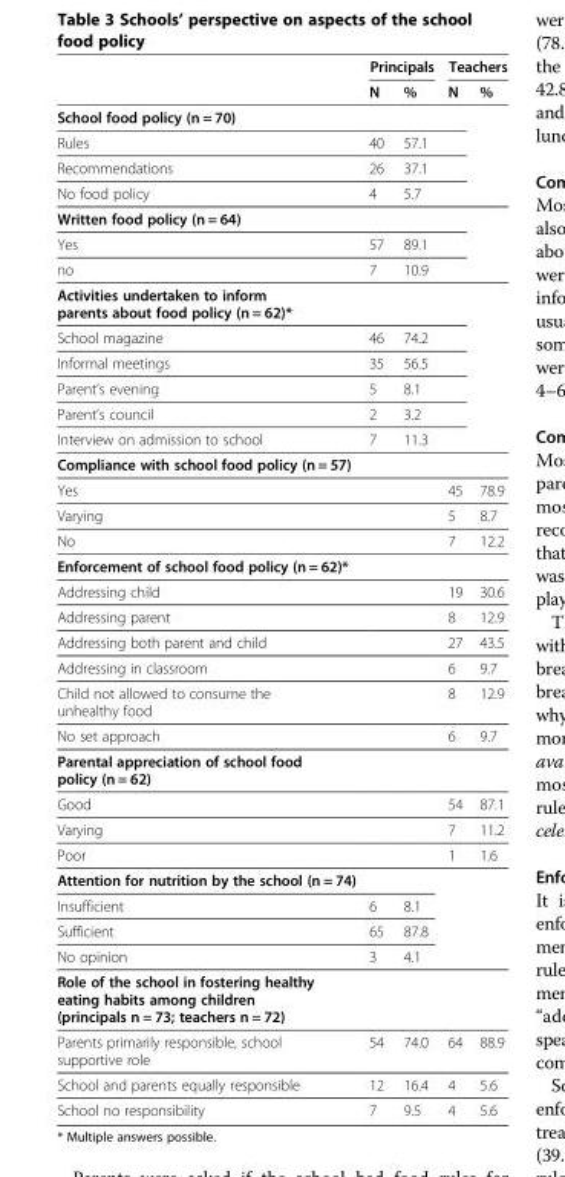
<table><thead><tr><td rowspan="2"></td><td colspan="2">Principals</td><td colspan="2">Teachers</td></tr><tr><td>N</td><td>%</td><td>N</td><td>%</td></tr></thead><tbody><tr><td colspan="5">School food policy (n = 70)</td></tr><tr><td>Rules</td><td>40</td><td>57.1</td><td></td><td></td></tr><tr><td>Recommendations</td><td>26</td><td>37.1</td><td></td><td></td></tr><tr><td>No food policy</td><td>4</td><td>5.7</td><td></td><td></td></tr><tr><td colspan="5">Written food policy (n = 64)</td></tr><tr><td>Yes</td><td>57</td><td>89.1</td><td></td><td></td></tr><tr><td>no</td><td>7</td><td>10.9</td><td></td><td></td></tr><tr><td colspan="5">Activities undertaken to inform parents about food policy (n = 62)*</td></tr><tr><td>School magazine</td><td>46</td><td>74.2</td><td></td><td></td></tr><tr><td>Informal meetings</td><td>35</td><td>56.5</td><td></td><td></td></tr><tr><td>Parent’s evening</td><td>5</td><td>8.1</td><td></td><td></td></tr><tr><td>Parent’s council</td><td>2</td><td>3.2</td><td></td><td></td></tr><tr><td>Interview on admission to school</td><td>7</td><td>11.3</td><td></td><td></td></tr><tr><td colspan="5">Compliance with school food policy (n = 57)</td></tr><tr><td>Yes</td><td></td><td></td><td>45</td><td>78.9</td></tr><tr><td>Varying</td><td></td><td></td><td>5</td><td>8.7</td></tr><tr><td>No</td><td></td><td></td><td>7</td><td>12.2</td></tr><tr><td colspan="5">Enforcement of school food policy (n = 62)*</td></tr><tr><td>Addressing child</td><td></td><td></td><td>19</td><td>30.6</td></tr><tr><td>Addressing parent</td><td></td><td></td><td>8</td><td>12.9</td></tr><tr><td>Addressing both parent and child</td><td></td><td></td><td>27</td><td>43.5</td></tr><tr><td>Addressing in classroom</td><td></td><td></td><td>6</td><td>9.7</td></tr><tr><td>Child not allowed to consume the unhealthy food</td><td></td><td></td><td>8</td><td>12.9</td></tr><tr><td>No set approach</td><td></td><td></td><td>6</td><td>9.7</td></tr><tr><td colspan="5">Parental appreciation of school food policy (n = 62)</td></tr><tr><td>Good</td><td></td><td></td><td>54</td><td>87.1</td></tr><tr><td>Varying</td><td></td><td></td><td>7</td><td>11.2</td></tr><tr><td>Poor</td><td></td><td></td><td>1</td><td>1.6</td></tr><tr><td colspan="5">Attention for nutrition by the school (n = 74)</td></tr><tr><td>Insufficient</td><td>6</td><td>8.1</td><td></td><td></td></tr><tr><td>Sufficient</td><td>65</td><td>87.8</td><td></td><td></td></tr><tr><td>No opinion</td><td>3</td><td>4.1</td><td></td><td></td></tr><tr><td colspan="5">Role of the school in fostering healthy eating habits among children (principals n = 73; teachers n = 72)</td></tr><tr><td>Parents primarily responsible, school supportive role</td><td>54</td><td>74.0</td><td>64</td><td>88.9</td></tr><tr><td>School and parents equally responsible</td><td>12</td><td>16.4</td><td>4</td><td>5.6</td></tr><tr><td>School no responsibility</td><td>7</td><td>9.5</td><td>4</td><td>5.6</td></tr></tbody></table>